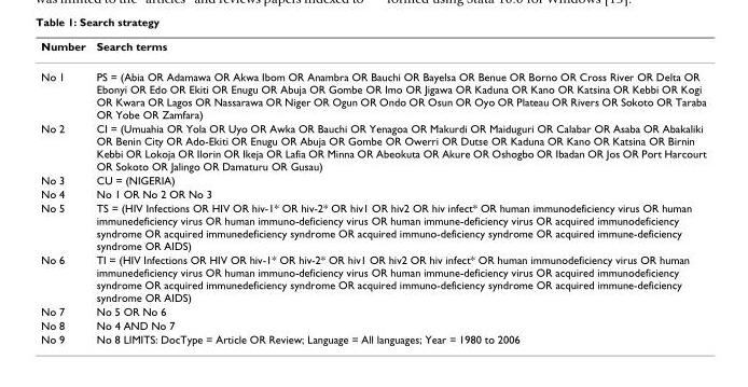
<table><thead><tr><td>Number</td><td>Search terms</td></tr></thead><tbody><tr><td>No 1</td><td>PS = (Abia OR Adamawa OR Akwa Ibom OR Anambra OR Bauchi OR Bayelsa OR Benue OR Borno OR Cross River OR Delta OR Ebonyi OR Edo OR Ekiti OR Enugu OR Abuja OR Gombe OR Imo OR Jigawa OR Kaduna OR Kano OR Katsina OR Kebbi OR Kogi OR Kwara OR Lagos OR Nassarawa OR Niger OR Ogun OR Ondo OR Osun OR Oyo OR Plateau OR Rivers OR Sokoto OR Taraba OR Yobe OR Zamfara)</td></tr><tr><td>No 2</td><td>CI = (Umuahia OR Yola OR Uyo OR Awka OR Bauchi OR Yenagoa OR Makurdi OR Maiduguri OR Calabar OR Asaba OR Abakaliki OR Benin City OR Ado-Ekiti OR Enugu OR Abuja OR Gombe OR Owerri OR Dutse OR Kaduna OR Kano OR Katsina OR Birnin Kebbi OR Lokoja OR Ilorin OR Ikeja OR Lafia OR Minna OR Abeokuta OR Akure OR Oshogbo OR Ibadan OR Jos OR Port Harcourt OR Sokoto OR Jalingo OR Damaturu OR Gusau)</td></tr><tr><td>No 3</td><td>CU = (NIGERIA)</td></tr><tr><td>No 4</td><td>No 1 OR No 2 OR No 3</td></tr><tr><td>No 5</td><td>TS = (HIV Infections OR HIV OR hiv-1* OR hiv-2* OR hiv1 OR hiv2 OR hiv infect* OR human immunodeficiency virus OR human immunedeficiency virus OR human immuno-deficiency virus OR human immune-deficiency virus OR acquired immunodeficiency syndrome OR acquired immunedeficiency syndrome OR acquired immuno-deficiency syndrome OR acquired immune-deficiency syndrome OR AIDS)</td></tr><tr><td>No 6</td><td>TI = (HIV Infections OR HIV OR hiv-1* OR hiv-2* OR hiv1 OR hiv2 OR hiv infect* OR human immunodeficiency virus OR human immunedeficiency virus OR human immuno-deficiency virus OR human immune-deficiency virus OR acquired immunodeficiency syndrome OR acquired immunedeficiency syndrome OR acquired immuno-deficiency syndrome OR acquired immune-deficiency syndrome OR AIDS)</td></tr><tr><td>No 7</td><td>No 5 OR No 6</td></tr><tr><td>No 8</td><td>No 4 AND No 7</td></tr><tr><td>No 9</td><td>No 8 LIMITS: DocType = Article OR Review; Language = All languages; Year = 1980 to 2006</td></tr></tbody></table>